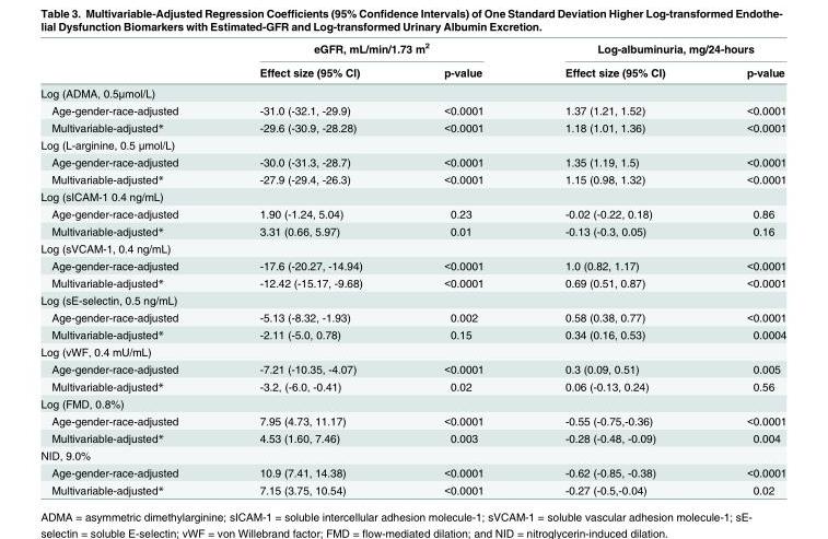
<table><thead><tr><td rowspan="2"></td><td colspan="2">eGFR, mL/min/1.73 m<sup>2</sup></td><td colspan="2">Log-albuminuria, mg/24-hours</td></tr><tr><td>Effect size (95% CI)</td><td>p-value</td><td>Effect size (95% CI)</td><td>p-value</td></tr></thead><tbody><tr><td colspan="5">Log (ADMA, 0.5μmol/L)</td></tr><tr><td>Age-gender-race-adjusted</td><td>-31.0 (-32.1, -29.9)</td><td>&lt;0.0001</td><td>1.37 (1.21, 1.52)</td><td>&lt;0.0001</td></tr><tr><td>Multivariable-adjusted*</td><td>-29.6 (-30.9, -28.28)</td><td>&lt;0.0001</td><td>1.18 (1.01, 1.36)</td><td>&lt;0.0001</td></tr><tr><td colspan="5">Log (L-arginine, 0.5 μmol/L)</td></tr><tr><td>Age-gender-race-adjusted</td><td>-30.0 (-31.3, -28.7)</td><td>&lt;0.0001</td><td>1.35 (1.19, 1.5)</td><td>&lt;0.0001</td></tr><tr><td>Multivariable-adjusted*</td><td>-27.9 (-29.4, -26.3)</td><td>&lt;0.0001</td><td>1.15 (0.98, 1.32)</td><td>&lt;0.0001</td></tr><tr><td colspan="5">Log (sICAM-1 0.4 ng/mL)</td></tr><tr><td>Age-gender-race-adjusted</td><td>1.90 (-1.24, 5.04)</td><td>0.23</td><td>-0.02 (-0.22, 0.18)</td><td>0.86</td></tr><tr><td>Multivariable-adjusted*</td><td>3.31 (0.66, 5.97)</td><td>0.01</td><td>-0.13 (-0.3, 0.05)</td><td>0.16</td></tr><tr><td colspan="5">Log (sVCAM-1, 0.4 ng/mL)</td></tr><tr><td>Age-gender-race-adjusted</td><td>-17.6 (-20.27, -14.94)</td><td>&lt;0.0001</td><td>1.0 (0.82, 1.17)</td><td>&lt;0.0001</td></tr><tr><td>Multivariable-adjusted*</td><td>-12.42 (-15.17, -9.68)</td><td>&lt;0.0001</td><td>0.69 (0.51, 0.87)</td><td>&lt;0.0001</td></tr><tr><td colspan="5">Log (sE-selectin, 0.5 ng/mL)</td></tr><tr><td>Age-gender-race-adjusted</td><td>-5.13 (-8.32, -1.93)</td><td>0.002</td><td>0.58 (0.38, 0.77)</td><td>&lt;0.0001</td></tr><tr><td>Multivariable-adjusted*</td><td>-2.11 (-5.0, 0.78)</td><td>0.15</td><td>0.34 (0.16, 0.53)</td><td>0.0004</td></tr><tr><td colspan="5">Log (vWF, 0.4 mU/mL)</td></tr><tr><td>Age-gender-race-adjusted</td><td>-7.21 (-10.35, -4.07)</td><td>&lt;0.0001</td><td>0.3 (0.09, 0.51)</td><td>0.005</td></tr><tr><td>Multivariable-adjusted*</td><td>-3.2, (-6.0, -0.41)</td><td>0.02</td><td>0.06 (-0.13, 0.24)</td><td>0.56</td></tr><tr><td colspan="5">Log (FMD, 0.8%)</td></tr><tr><td>Age-gender-race-adjusted</td><td>7.95 (4.73, 11.17)</td><td>&lt;0.0001</td><td>-0.55 (-0.75,-0.36)</td><td>&lt;0.0001</td></tr><tr><td>Multivariable-adjusted*</td><td>4.53 (1.60, 7.46)</td><td>0.003</td><td>-0.28 (-0.48, -0.09)</td><td>0.004</td></tr><tr><td colspan="5">NID, 9.0%</td></tr><tr><td>Age-gender-race-adjusted</td><td>10.9 (7.41, 14.38)</td><td>&lt;0.0001</td><td>-0.62 (-0.85, -0.38)</td><td>&lt;0.0001</td></tr><tr><td>Multivariable-adjusted*</td><td>7.15 (3.75, 10.54)</td><td>&lt;0.0001</td><td>-0.27 (-0.5,-0.04)</td><td>0.02</td></tr></tbody></table>